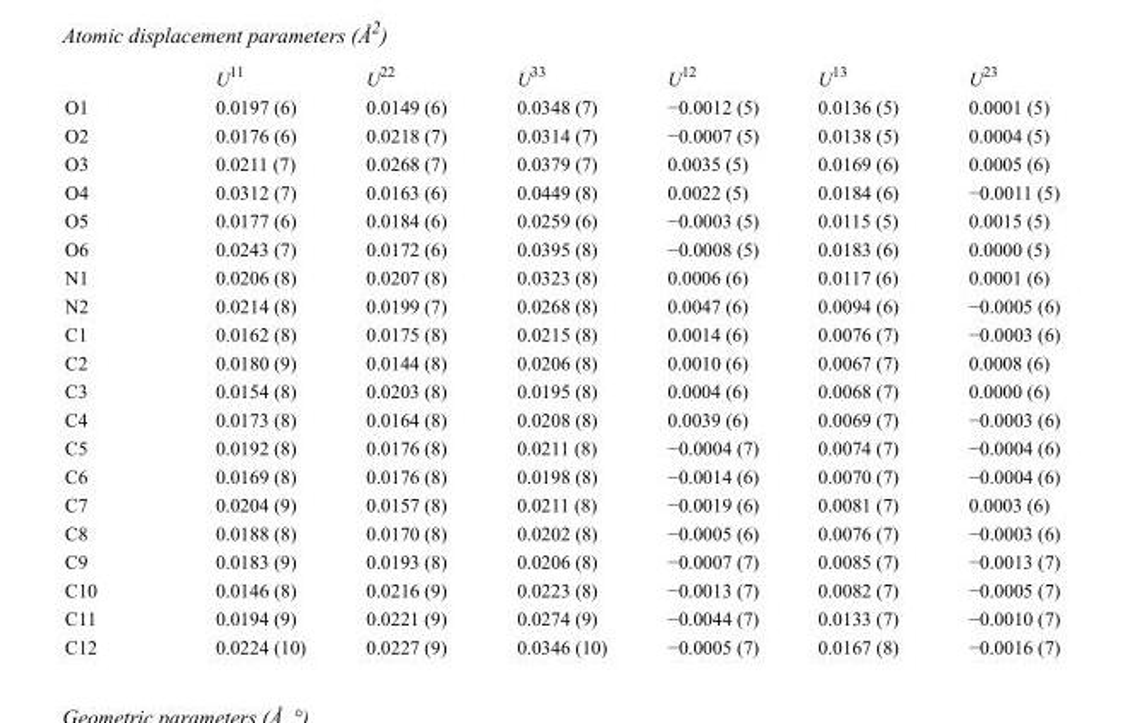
<table><thead><tr><td></td><td>U<sup>11</sup></td><td>U<sup>22</sup></td><td>U<sup>33</sup></td><td>U<sup>12</sup></td><td>U<sup>13</sup></td><td>U<sup>23</sup></td></tr></thead><tbody><tr><td>O1</td><td>0.0197 (6)</td><td>0.0149 (6)</td><td>0.0348 (7)</td><td>−0.0012 (5)</td><td>0.0136 (5)</td><td>0.0001 (5)</td></tr><tr><td>O2</td><td>0.0176 (6)</td><td>0.0218 (7)</td><td>0.0314 (7)</td><td>−0.0007 (5)</td><td>0.0138 (5)</td><td>0.0004 (5)</td></tr><tr><td>O3</td><td>0.0211 (7)</td><td>0.0268 (7)</td><td>0.0379 (7)</td><td>0.0035 (5)</td><td>0.0169 (6)</td><td>0.0005 (6)</td></tr><tr><td>O4</td><td>0.0312 (7)</td><td>0.0163 (6)</td><td>0.0449 (8)</td><td>0.0022 (5)</td><td>0.0184 (6)</td><td>−0.0011 (5)</td></tr><tr><td>O5</td><td>0.0177 (6)</td><td>0.0184 (6)</td><td>0.0259 (6)</td><td>−0.0003 (5)</td><td>0.0115 (5)</td><td>0.0015 (5)</td></tr><tr><td>O6</td><td>0.0243 (7)</td><td>0.0172 (6)</td><td>0.0395 (8)</td><td>−0.0008 (5)</td><td>0.0183 (6)</td><td>0.0000 (5)</td></tr><tr><td>N1</td><td>0.0206 (8)</td><td>0.0207 (8)</td><td>0.0323 (8)</td><td>0.0006 (6)</td><td>0.0117 (6)</td><td>0.0001 (6)</td></tr><tr><td>N2</td><td>0.0214 (8)</td><td>0.0199 (7)</td><td>0.0268 (8)</td><td>0.0047 (6)</td><td>0.0094 (6)</td><td>−0.0005 (6)</td></tr><tr><td>C1</td><td>0.0162 (8)</td><td>0.0175 (8)</td><td>0.0215 (8)</td><td>0.0014 (6)</td><td>0.0076 (7)</td><td>−0.0003 (6)</td></tr><tr><td>C2</td><td>0.0180 (9)</td><td>0.0144 (8)</td><td>0.0206 (8)</td><td>0.0010 (6)</td><td>0.0067 (7)</td><td>0.0008 (6)</td></tr><tr><td>C3</td><td>0.0154 (8)</td><td>0.0203 (8)</td><td>0.0195 (8)</td><td>0.0004 (6)</td><td>0.0068 (7)</td><td>0.0000 (6)</td></tr><tr><td>C4</td><td>0.0173 (8)</td><td>0.0164 (8)</td><td>0.0208 (8)</td><td>0.0039 (6)</td><td>0.0069 (7)</td><td>−0.0003 (6)</td></tr><tr><td>C5</td><td>0.0192 (8)</td><td>0.0176 (8)</td><td>0.0211 (8)</td><td>−0.0004 (7)</td><td>0.0074 (7)</td><td>−0.0004 (6)</td></tr><tr><td>C6</td><td>0.0169 (8)</td><td>0.0176 (8)</td><td>0.0198 (8)</td><td>−0.0014 (6)</td><td>0.0070 (7)</td><td>−0.0004 (6)</td></tr><tr><td>C7</td><td>0.0204 (9)</td><td>0.0157 (8)</td><td>0.0211 (8)</td><td>−0.0019 (6)</td><td>0.0081 (7)</td><td>0.0003 (6)</td></tr><tr><td>C8</td><td>0.0188 (8)</td><td>0.0170 (8)</td><td>0.0202 (8)</td><td>−0.0005 (6)</td><td>0.0076 (7)</td><td>−0.0003 (6)</td></tr><tr><td>C9</td><td>0.0183 (9)</td><td>0.0193 (8)</td><td>0.0206 (8)</td><td>−0.0007 (7)</td><td>0.0085 (7)</td><td>−0.0013 (7)</td></tr><tr><td>C10</td><td>0.0146 (8)</td><td>0.0216 (9)</td><td>0.0223 (8)</td><td>−0.0013 (7)</td><td>0.0082 (7)</td><td>−0.0005 (7)</td></tr><tr><td>C11</td><td>0.0194 (9)</td><td>0.0221 (9)</td><td>0.0274 (9)</td><td>−0.0044 (7)</td><td>0.0133 (7)</td><td>−0.0010 (7)</td></tr><tr><td>C12</td><td>0.0224 (10)</td><td>0.0227 (9)</td><td>0.0346 (10)</td><td>−0.0005 (7)</td><td>0.0167 (8)</td><td>−0.0016 (7)</td></tr></tbody></table>